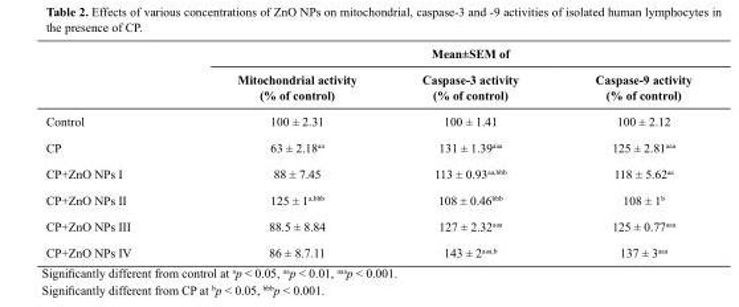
<table><thead><tr><td rowspan="2"></td><td colspan="3">Mean±SEM of</td></tr><tr><td>Mitochondrial activity (% of control)</td><td>Caspase-3 activity (% of control)</td><td>Caspase-9 activity (% of control)</td></tr></thead><tbody><tr><td>Control</td><td>100 ± 2.31</td><td>100 ± 1.41</td><td>100 ± 2.12</td></tr><tr><td>CP</td><td>63 ± 2.18<sup>aa</sup></td><td>131 ± 1.39aaa</td><td>125 ± 2.81aaa</td></tr><tr><td>CP+ZnO NPs I</td><td>88 ± 7.45</td><td>113 ± 0.93<sup>aa</sup>,bbb</td><td>118 ± 5.62<sup>aa</sup></td></tr><tr><td>CP+ZnO NPs II</td><td>125 ± 1<sup>a</sup>,bbb</td><td>108 ± 0.46bbb</td><td>108 ± 1<sup>b</sup></td></tr><tr><td>CP+ZnO NPs III</td><td>88.5 ± 8.84</td><td>127 ± 2.32aaa</td><td>125 ± 0.77aaa</td></tr><tr><td>CP+ZnO NPs IV</td><td>86 ± 8.7.11</td><td>143 ± 2aaa,<sup>b</sup></td><td>137 ± 3aaa</td></tr></tbody></table>